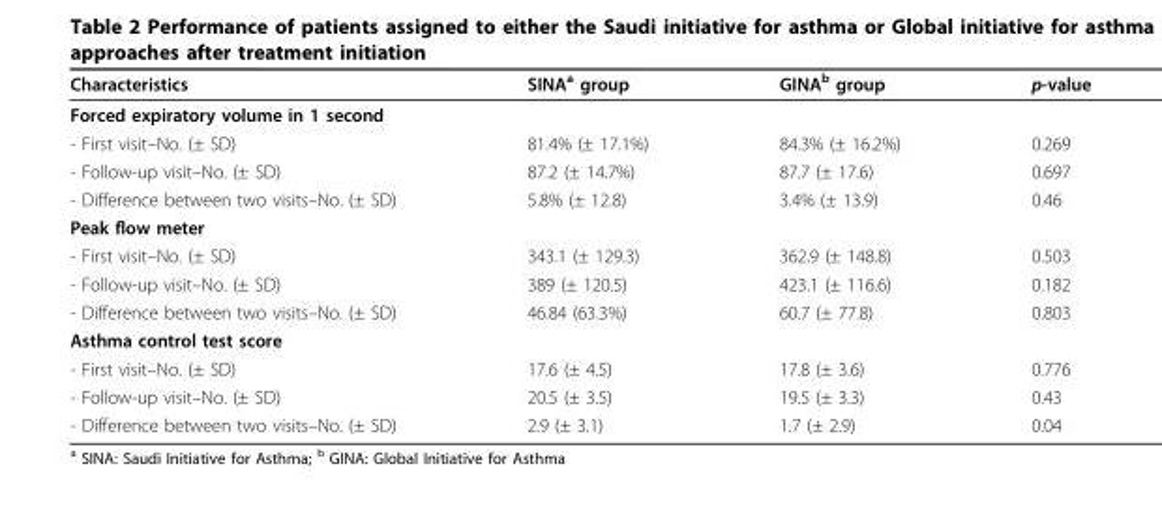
<table><thead><tr><td>Characteristics</td><td>SINA<sup>a</sup> group</td><td>GINA<sup>b</sup> group</td><td>p-value</td></tr></thead><tbody><tr><td colspan="4">Forced expiratory volume in 1 second</td></tr><tr><td>- First visit–No. (± SD)</td><td>81.4% (± 17.1%)</td><td>84.3% (± 16.2%)</td><td>0.269</td></tr><tr><td>- Follow-up visit–No. (± SD)</td><td>87.2 (± 14.7%)</td><td>87.7 (± 17.6)</td><td>0.697</td></tr><tr><td>- Difference between two visits–No. (± SD)</td><td>5.8% (± 12.8)</td><td>3.4% (± 13.9)</td><td>0.46</td></tr><tr><td colspan="4">Peak flow meter</td></tr><tr><td>- First visit–No. (± SD)</td><td>343.1 (± 129.3)</td><td>362.9 (± 148.8)</td><td>0.503</td></tr><tr><td>- Follow-up visit–No. (± SD)</td><td>389 (± 120.5)</td><td>423.1 (± 116.6)</td><td>0.182</td></tr><tr><td>- Difference between two visits–No. (± SD)</td><td>46.84 (63.3%)</td><td>60.7 (± 77.8)</td><td>0.803</td></tr><tr><td colspan="4">Asthma control test score</td></tr><tr><td>- First visit–No. (± SD)</td><td>17.6 (± 4.5)</td><td>17.8 (± 3.6)</td><td>0.776</td></tr><tr><td>- Follow-up visit–No. (± SD)</td><td>20.5 (± 3.5)</td><td>19.5 (± 3.3)</td><td>0.43</td></tr><tr><td>- Difference between two visits–No. (± SD)</td><td>2.9 (± 3.1)</td><td>1.7 (± 2.9)</td><td>0.04</td></tr></tbody></table>